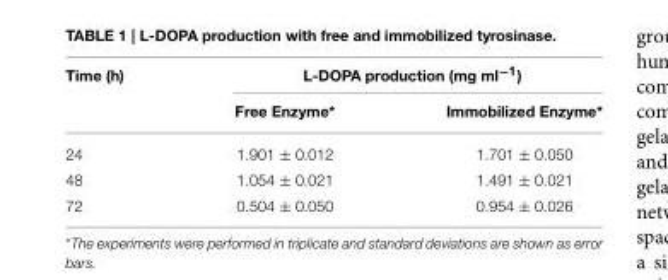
<table><thead><tr><td rowspan="2">Time (h)</td><td colspan="2">L-DOPA production (mg ml<sup>−1</sup>)</td></tr><tr><td>Free Enzyme*</td><td>Immobilized Enzyme*</td></tr></thead><tbody><tr><td>24</td><td>1.901 ± 0.012</td><td>1.701 ± 0.050</td></tr><tr><td>48</td><td>1.054 ± 0.021</td><td>1.491 ± 0.021</td></tr><tr><td>72</td><td>0.504 ± 0.050</td><td>0.954 ± 0.026</td></tr></tbody></table>